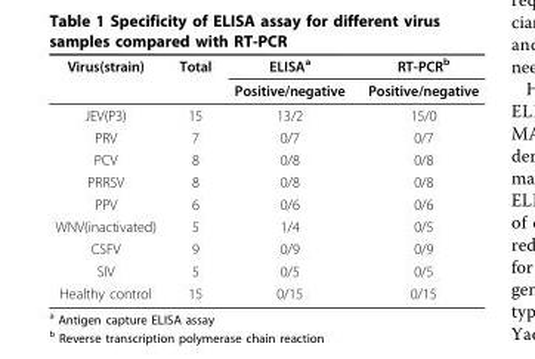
<table><thead><tr><td rowspan="2">Virus(strain)</td><td rowspan="2">Total</td><td rowspan="2">ELISA<sup>a</sup> Positive/negative</td><td rowspan="2">RT-PCR<sup>b</sup> Positive/negative</td></tr><tr></tr></thead><tbody><tr><td>JEV(P3)</td><td>15</td><td>13/2</td><td>15/0</td></tr><tr><td>PRV</td><td>7</td><td>0/7</td><td>0/7</td></tr><tr><td>PCV</td><td>8</td><td>0/8</td><td>0/8</td></tr><tr><td>PRRSV</td><td>8</td><td>0/8</td><td>0/8</td></tr><tr><td>PPV</td><td>6</td><td>0/6</td><td>0/6</td></tr><tr><td>WNV(inactivated)</td><td>5</td><td>1/4</td><td>0/5</td></tr><tr><td>CSFV</td><td>9</td><td>0/9</td><td>0/9</td></tr><tr><td>SIV</td><td>5</td><td>0/5</td><td>0/5</td></tr><tr><td>Healthy control</td><td>15</td><td>0/15</td><td>0/15</td></tr></tbody></table>